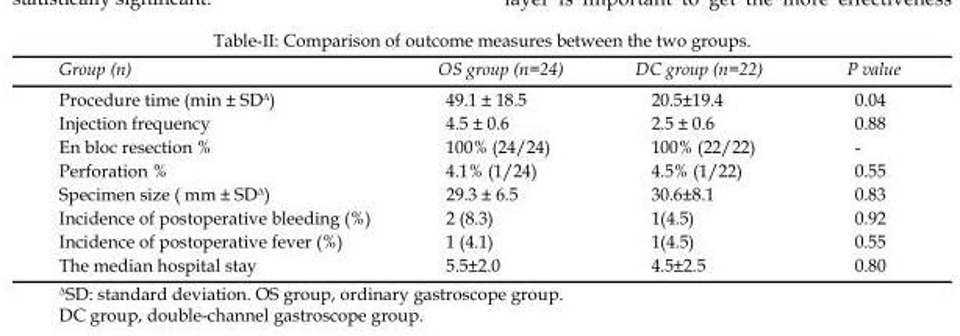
<table><thead><tr><td>Group (n)</td><td>OS group (n=24)</td><td>DC group (n=22)</td><td>P value</td></tr></thead><tbody><tr><td>Procedure time (min ± SD<sup>∆</sup>)</td><td>49.1 ± 18.5</td><td>20.5±19.4</td><td>0.04</td></tr><tr><td>Injection frequency</td><td>4.5 ± 0.6</td><td>2.5 ± 0.6</td><td>0.88</td></tr><tr><td>En bloc resection %</td><td>100% (24/24)</td><td>100% (22/22)</td><td>-</td></tr><tr><td>Perforation %</td><td>4.1% (1/24)</td><td>4.5% (1/22)</td><td>0.55</td></tr><tr><td>Specimen size ( mm ± SD<sup>∆</sup>)</td><td>29.3 ± 6.5</td><td>30.6±8.1</td><td>0.83</td></tr><tr><td>Incidence of postoperative bleeding (%)</td><td>2 (8.3)</td><td>1(4.5)</td><td>0.92</td></tr><tr><td>Incidence of postoperative fever (%)</td><td>1 (4.1)</td><td>1(4.5)</td><td>0.55</td></tr><tr><td>The median hospital stay</td><td>5.5±2.0</td><td>4.5±2.5</td><td>0.80</td></tr></tbody></table>